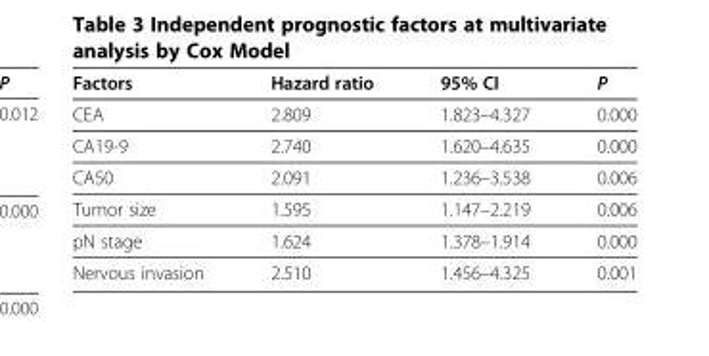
<table><thead><tr><td>Factors</td><td>Hazard ratio</td><td>95% CI</td><td>P</td></tr></thead><tbody><tr><td>CEA</td><td>2.809</td><td>1.823–4.327</td><td>0.000</td></tr><tr><td>CA19-9</td><td>2.740</td><td>1.620–4.635</td><td>0.000</td></tr><tr><td>CA50</td><td>2.091</td><td>1.236–3.538</td><td>0.006</td></tr><tr><td>Tumor size</td><td>1.595</td><td>1.147–2.219</td><td>0.006</td></tr><tr><td>pN stage</td><td>1.624</td><td>1.378–1.914</td><td>0.000</td></tr><tr><td>Nervous invasion</td><td>2.510</td><td>1.456–4.325</td><td>0.001</td></tr></tbody></table>